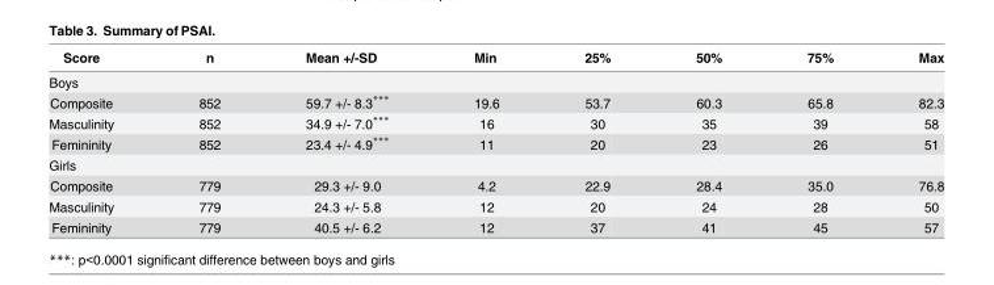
<table><thead><tr><td>Score</td><td>n</td><td>Mean +/-SD</td><td>Min</td><td>25%</td><td>50%</td><td>75%</td><td>Max</td></tr></thead><tbody><tr><td colspan="8">Boys</td></tr><tr><td>Composite</td><td>852</td><td>59.7 +/- 8.3***</td><td>19.6</td><td>53.7</td><td>60.3</td><td>65.8</td><td>82.3</td></tr><tr><td>Masculinity</td><td>852</td><td>34.9 +/- 7.0***</td><td>16</td><td>30</td><td>35</td><td>39</td><td>58</td></tr><tr><td>Femininity</td><td>852</td><td>23.4 +/- 4.9***</td><td>11</td><td>20</td><td>23</td><td>26</td><td>51</td></tr><tr><td colspan="8">Girls</td></tr><tr><td>Composite</td><td>779</td><td>29.3 +/- 9.0</td><td>4.2</td><td>22.9</td><td>28.4</td><td>35.0</td><td>76.8</td></tr><tr><td>Masculinity</td><td>779</td><td>24.3 +/- 5.8</td><td>12</td><td>20</td><td>24</td><td>28</td><td>50</td></tr><tr><td>Femininity</td><td>779</td><td>40.5 +/- 6.2</td><td>12</td><td>37</td><td>41</td><td>45</td><td>57</td></tr></tbody></table>